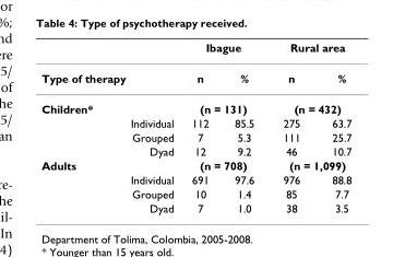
<table><thead><tr><td rowspan="2">Type of therapy</td><td colspan="2">Ibague</td><td colspan="2">Rural area</td></tr><tr><td>n</td><td>%</td><td>n</td><td>%</td></tr></thead><tbody><tr><td>Children*</td><td colspan="2">(n = 131)</td><td colspan="2">(n = 432)</td></tr><tr><td>Individual</td><td>112</td><td>85.5</td><td>275</td><td>63.7</td></tr><tr><td>Grouped</td><td>7</td><td>5.3</td><td>111</td><td>25.7</td></tr><tr><td>Dyad</td><td>12</td><td>9.2</td><td>46</td><td>10.7</td></tr><tr><td>Adults</td><td colspan="2">(n = 708)</td><td colspan="2">(n = 1,099)</td></tr><tr><td>Individual</td><td>691</td><td>97.6</td><td>976</td><td>88.8</td></tr><tr><td>Grouped</td><td>10</td><td>1.4</td><td>85</td><td>7.7</td></tr><tr><td>Dyad</td><td>7</td><td>1.0</td><td>38</td><td>3.5</td></tr></tbody></table>